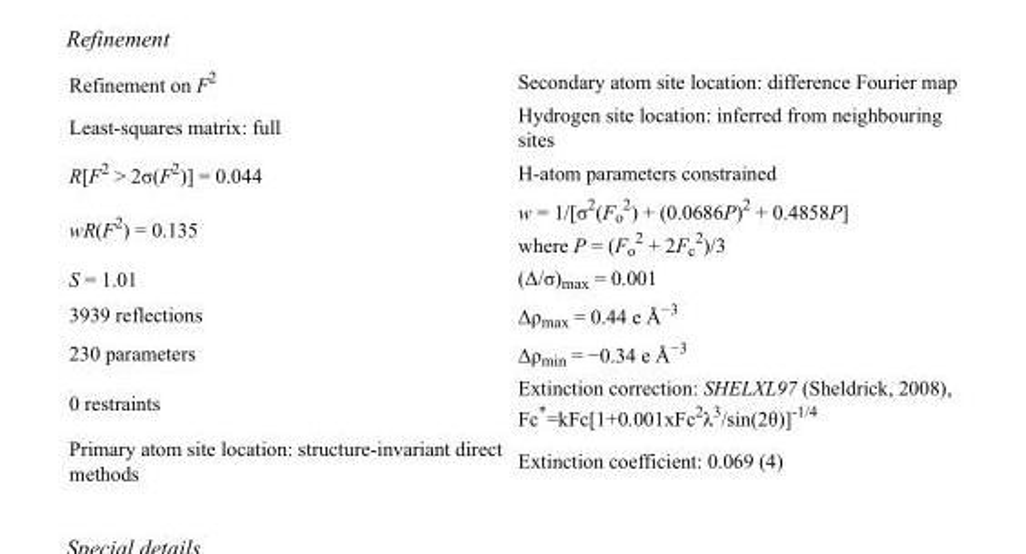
<table><tbody><tr><td>Refinement on F<sup>2</sup></td><td>Secondary atom site location: difference Fourier map</td></tr><tr><td>Least-squares matrix: full</td><td>Hydrogen site location: inferred from neighbouring sites</td></tr><tr><td>R[F<sup>2</sup> &gt; 2σ(F<sup>2</sup>)] = 0.044</td><td>H-atom parameters constrained</td></tr><tr><td>wR(F<sup>2</sup>) = 0.135</td><td>w = 1/[σ<sup>2</sup>(F<sub>o</sub> <sup>2</sup>) + (0.0686P)<sup>2</sup> + 0.4858P] where P = (F<sub>o</sub> <sup>2</sup> + 2F<sub>c</sub> <sup>2</sup>)/3</td></tr><tr><td>S = 1.01</td><td>(Δ/σ)<sub>max</sub> = 0.001</td></tr><tr><td>3939 reflections</td><td>Δρ<sub>max</sub> = 0.44 e Å<sup>−3</sup></td></tr><tr><td>230 parameters</td><td>Δρ<sub>min</sub> = −0.34 e Å<sup>−3</sup></td></tr><tr><td>0 restraints</td><td>Extinction correction: SHELXL97 (Sheldrick, 2008), Fc*=kFc[1+0.001xFc<sup>2</sup>λ<sup>3</sup>/sin(2θ)]<sup>-1/4</sup></td></tr><tr><td>Primary atom site location: structure-invariant direct methods</td><td>Extinction coefficient: 0.069 (4)</td></tr></tbody></table>